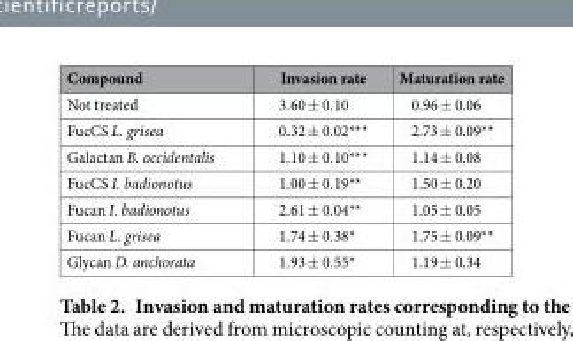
<table><thead><tr><td>Compound</td><td>Invasion rate</td><td>Maturation rate</td></tr></thead><tbody><tr><td>Not treated</td><td>3.60 ± 0.10</td><td>0.96 ± 0.06</td></tr><tr><td>FucCS L. grisea</td><td>0.32 ± 0.02***</td><td>2.73 ± 0.09**</td></tr><tr><td>Galactan B. occidentalis</td><td>1.10 ± 0.10***</td><td>1.14 ± 0.08</td></tr><tr><td>FucCS I. badionotus</td><td>1.00 ± 0.19**</td><td>1.50 ± 0.20</td></tr><tr><td>Fucan I. badionotus</td><td>2.61 ± 0.04**</td><td>1.05 ± 0.05</td></tr><tr><td>Fucan L. grisea</td><td>1.74 ± 0.38*</td><td>1.75 ± 0.09**</td></tr><tr><td>Glycan D. anchorata</td><td>1.93 ± 0.55*</td><td>1.19 ± 0.34</td></tr></tbody></table>